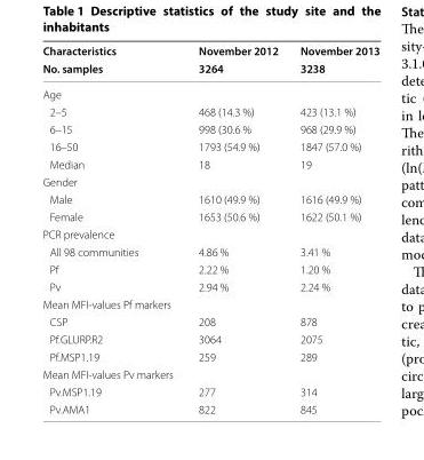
<table><thead><tr><td rowspan="2">Characteristics No. samples</td><td rowspan="2">November 2012 3264</td><td rowspan="2">November 2013 3238</td></tr><tr></tr></thead><tbody><tr><td colspan="3">Age</td></tr><tr><td>2–5</td><td>468 (14.3 %)</td><td>423 (13.1 %)</td></tr><tr><td>6–15</td><td>998 (30.6 %</td><td>968 (29.9 %)</td></tr><tr><td>16–50</td><td>1793 (54.9 %)</td><td>1847 (57.0 %)</td></tr><tr><td>Median</td><td>18</td><td>19</td></tr><tr><td colspan="3">Gender</td></tr><tr><td>Male</td><td>1610 (49.9 %)</td><td>1616 (49.9 %)</td></tr><tr><td>Female</td><td>1653 (50.6 %)</td><td>1622 (50.1 %)</td></tr><tr><td colspan="3">PCR prevalence</td></tr><tr><td>All 98 communities</td><td>4.86 %</td><td>3.41 %</td></tr><tr><td>Pf</td><td>2.22 %</td><td>1.20 %</td></tr><tr><td>Pv</td><td>2.94 %</td><td>2.24 %</td></tr><tr><td colspan="3">Mean MFI-values Pf markers</td></tr><tr><td>CSP</td><td>208</td><td>878</td></tr><tr><td>Pf.GLURP.R2</td><td>3064</td><td>2075</td></tr><tr><td>Pf.MSP1.19</td><td>259</td><td>289</td></tr><tr><td colspan="3">Mean MFI-values Pv markers</td></tr><tr><td>Pv.MSP1.19</td><td>277</td><td>314</td></tr><tr><td>Pv.AMA1</td><td>822</td><td>845</td></tr></tbody></table>